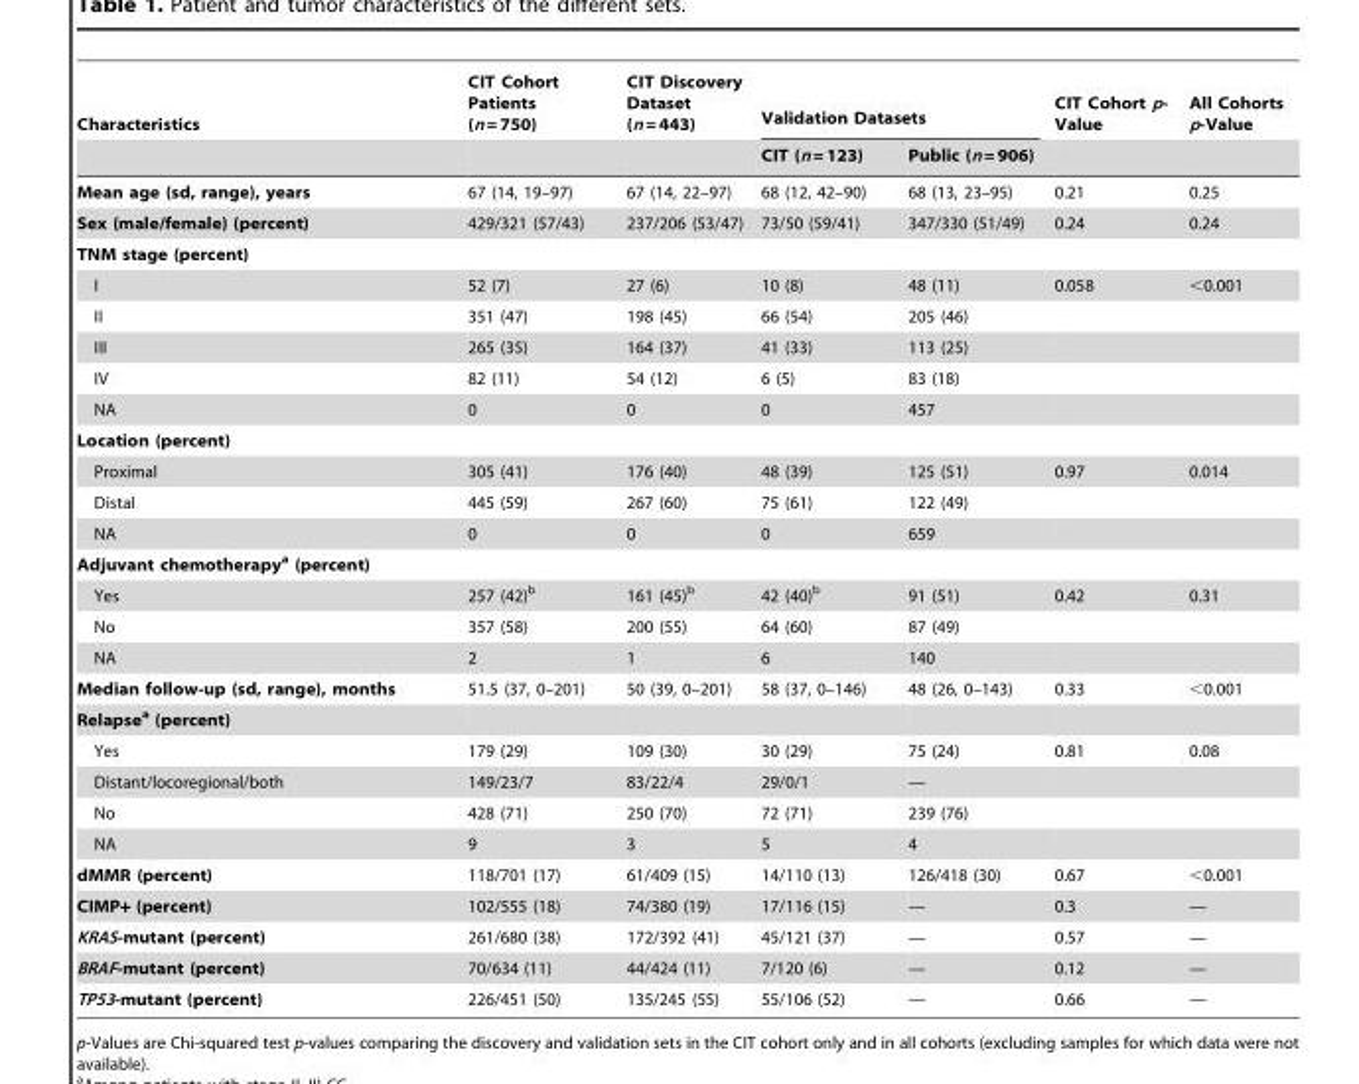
<table><thead><tr><td rowspan="2">Characteristics</td><td rowspan="2">CIT Cohort Patients (n = 750)</td><td rowspan="2">CIT Discovery Dataset (n = 443)</td><td colspan="2">Validation Datasets</td><td rowspan="2">CIT Cohort p- Value</td><td rowspan="2">All Cohorts p-Value</td></tr><tr><td>CIT (n = 123)</td><td>Public (n = 906)</td></tr></thead><tbody><tr><td>Mean age (sd, range), years</td><td>67 (14, 19–97)</td><td>67 (14, 22–97)</td><td>68 (12, 42–90)</td><td>68 (13, 23–95)</td><td>0.21</td><td>0.25</td></tr><tr><td>Sex (male/female) (percent)</td><td>429/321 (57/43)</td><td>237/206 (53/47)</td><td>73/50 (59/41)</td><td>347/330 (51/49)</td><td>0.24</td><td>0.24</td></tr><tr><td colspan="7">TNM stage (percent)</td></tr><tr><td>I</td><td>52 (7)</td><td>27 (6)</td><td>10 (8)</td><td>48 (11)</td><td>0.058</td><td>&lt;0.001</td></tr><tr><td>II</td><td>351 (47)</td><td>198 (45)</td><td>66 (54)</td><td>205 (46)</td><td></td><td></td></tr><tr><td>III</td><td>265 (35)</td><td>164 (37)</td><td>41 (33)</td><td>113 (25)</td><td></td><td></td></tr><tr><td>IV</td><td>82 (11)</td><td>54 (12)</td><td>6 (5)</td><td>83 (18)</td><td></td><td></td></tr><tr><td>NA</td><td>0</td><td>0</td><td>0</td><td>457</td><td></td><td></td></tr><tr><td colspan="7">Location (percent)</td></tr><tr><td>Proximal</td><td>305 (41)</td><td>176 (40)</td><td>48 (39)</td><td>125 (51)</td><td>0.97</td><td>0.014</td></tr><tr><td>Distal</td><td>445 (59)</td><td>267 (60)</td><td>75 (61)</td><td>122 (49)</td><td></td><td></td></tr><tr><td>NA</td><td>0</td><td>0</td><td>0</td><td>659</td><td></td><td></td></tr><tr><td colspan="7">Adjuvant chemotherapya (percent)</td></tr><tr><td>Yes</td><td>257 (42)<sup>b</sup></td><td>161 (45)<sup>b</sup></td><td>42 (40)<sup>b</sup></td><td>91 (51)</td><td>0.42</td><td>0.31</td></tr><tr><td>No</td><td>357 (58)</td><td>200 (55)</td><td>64 (60)</td><td>87 (49)</td><td></td><td></td></tr><tr><td>NA</td><td>2</td><td>1</td><td>6</td><td>140</td><td></td><td></td></tr><tr><td>Median follow-up (sd, range), months</td><td>51.5 (37, 0–201)</td><td>50 (39, 0–201)</td><td>58 (37, 0–146)</td><td>48 (26, 0–143)</td><td>0.33</td><td>&lt;0.001</td></tr><tr><td colspan="7">Relapsea (percent)</td></tr><tr><td>Yes</td><td>179 (29)</td><td>109 (30)</td><td>30 (29)</td><td>75 (24)</td><td>0.81</td><td>0.08</td></tr><tr><td>Distant/locoregional/both</td><td>149/23/7</td><td>83/22/4</td><td>29/0/1</td><td>—</td><td></td><td></td></tr><tr><td>No</td><td>428 (71)</td><td>250 (70)</td><td>72 (71)</td><td>239 (76)</td><td></td><td></td></tr><tr><td>NA</td><td>9</td><td>3</td><td>5</td><td>4</td><td></td><td></td></tr><tr><td>dMMR (percent)</td><td>118/701 (17)</td><td>61/409 (15)</td><td>14/110 (13)</td><td>126/418 (30)</td><td>0.67</td><td>&lt;0.001</td></tr><tr><td>CIMP+ (percent)</td><td>102/555 (18)</td><td>74/380 (19)</td><td>17/116 (15)</td><td>—</td><td>0.3</td><td>—</td></tr><tr><td>KRAS-mutant (percent)</td><td>261/680 (38)</td><td>172/392 (41)</td><td>45/121 (37)</td><td>—</td><td>0.57</td><td>—</td></tr><tr><td>BRAF-mutant (percent)</td><td>70/634 (11)</td><td>44/424 (11)</td><td>7/120 (6)</td><td>—</td><td>0.12</td><td>—</td></tr><tr><td>TP53-mutant (percent)</td><td>226/451 (50)</td><td>135/245 (55)</td><td>55/106 (52)</td><td>—</td><td>0.66</td><td>—</td></tr></tbody></table>